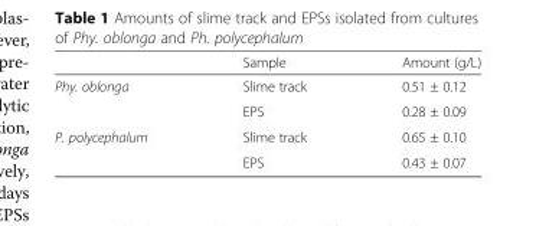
<table><thead><tr><td></td><td>Sample</td><td>Amount (g/L)</td></tr></thead><tbody><tr><td rowspan="2">Phy. oblonga</td><td>Slime track</td><td>0.51 ± 0.12</td></tr><tr><td>EPS</td><td>0.28 ± 0.09</td></tr><tr><td rowspan="2">P. polycephalum</td><td>Slime track</td><td>0.65 ± 0.10</td></tr><tr><td>EPS</td><td>0.43 ± 0.07</td></tr></tbody></table>